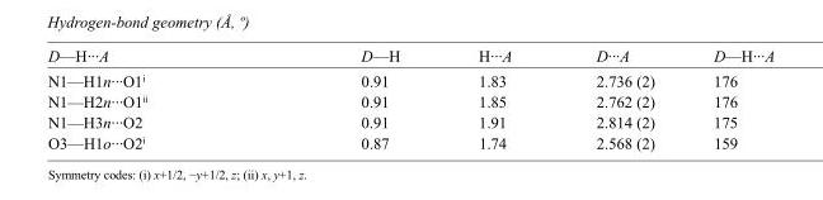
<table><tbody><tr><td>D—H···A</td><td>D—H</td><td>H···A</td><td>D···A</td><td>D—H···A</td></tr><tr><td>N1—H1n···O1<sup>i</sup></td><td>0.91</td><td>1.83</td><td>2.736 (2)</td><td>176</td></tr><tr><td>N1—H2n···O1<sup>ii</sup></td><td>0.91</td><td>1.85</td><td>2.762 (2)</td><td>176</td></tr><tr><td>N1—H3n···O2</td><td>0.91</td><td>1.91</td><td>2.814 (2)</td><td>175</td></tr><tr><td>O3—H1o···O2<sup>i</sup></td><td>0.87</td><td>1.74</td><td>2.568 (2)</td><td>159</td></tr></tbody></table>